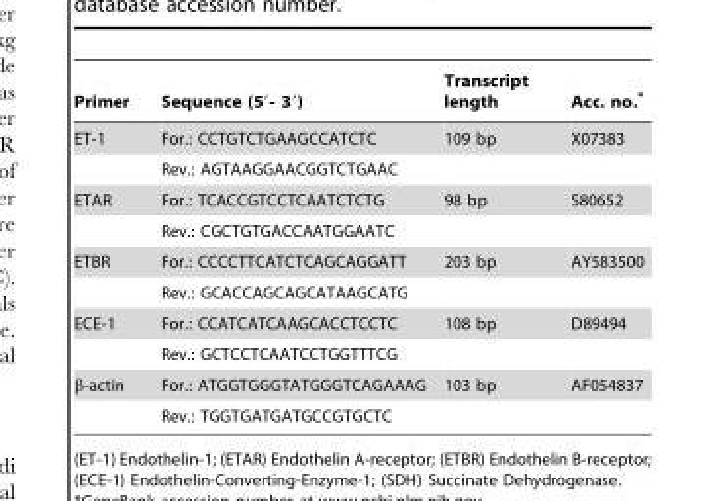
<table><thead><tr><td>Primer</td><td>Sequence (5′- 3′)</td><td>Transcript length</td><td>Acc. no.*</td></tr></thead><tbody><tr><td rowspan="2">ET-1</td><td>For.: CCTGTCTGAAGCCATCTC</td><td>109 bp</td><td>X07383</td></tr><tr><td>Rev.: AGTAAGGAACGGTCTGAAC</td><td></td><td></td></tr><tr><td rowspan="2">ETAR</td><td>For.: TCACCGTCCTCAATCTCTG</td><td>98 bp</td><td>S80652</td></tr><tr><td>Rev.: CGCTGTGACCAATGGAATC</td><td></td><td></td></tr><tr><td rowspan="2">ETBR</td><td>For.: CCCCTTCATCTCAGCAGGATT</td><td>203 bp</td><td>AY583500</td></tr><tr><td>Rev.: GCACCAGCAGCATAAGCATG</td><td></td><td></td></tr><tr><td rowspan="2">ECE-1</td><td>For.: CCATCATCAAGCACCTCCTC</td><td>108 bp</td><td>D89494</td></tr><tr><td>Rev.: GCTCCTCAATCCTGGTTTCG</td><td></td><td></td></tr><tr><td rowspan="2">β-actin</td><td>For.: ATGGTGGGTATGGGTCAGAAAG</td><td>103 bp</td><td>AF054837</td></tr><tr><td>Rev.: TGGTGATGATGCCGTGCTC</td><td></td><td></td></tr></tbody></table>